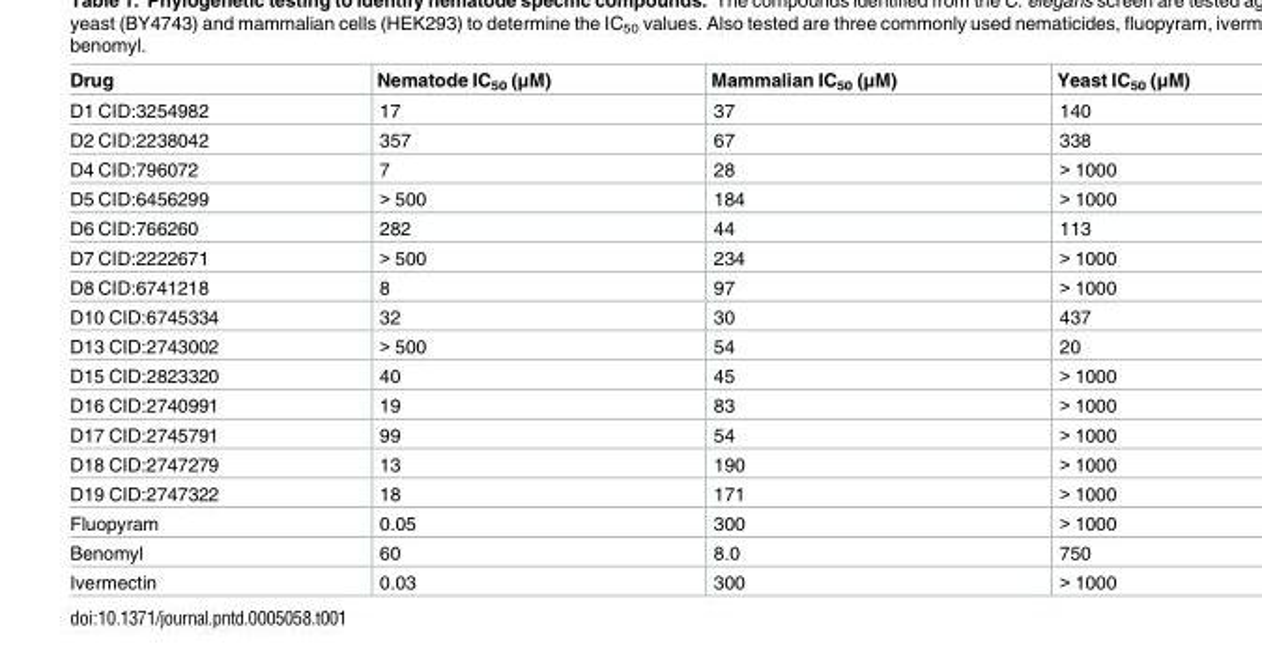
<table><thead><tr><td>Drug</td><td>Nematode IC<sub>50</sub> (μM)</td><td>Mammalian IC<sub>50</sub> (μM)</td><td>Yeast IC<sub>50</sub> (μM)</td></tr></thead><tbody><tr><td>D1 CID:3254982</td><td>17</td><td>37</td><td>140</td></tr><tr><td>D2 CID:2238042</td><td>357</td><td>67</td><td>338</td></tr><tr><td>D4 CID:796072</td><td>7</td><td>28</td><td>&gt; 1000</td></tr><tr><td>D5 CID:6456299</td><td>&gt; 500</td><td>184</td><td>&gt; 1000</td></tr><tr><td>D6 CID:766260</td><td>282</td><td>44</td><td>113</td></tr><tr><td>D7 CID:2222671</td><td>&gt; 500</td><td>234</td><td>&gt; 1000</td></tr><tr><td>D8 CID:6741218</td><td>8</td><td>97</td><td>&gt; 1000</td></tr><tr><td>D10 CID:6745334</td><td>32</td><td>30</td><td>437</td></tr><tr><td>D13 CID:2743002</td><td>&gt; 500</td><td>54</td><td>20</td></tr><tr><td>D15 CID:2823320</td><td>40</td><td>45</td><td>&gt; 1000</td></tr><tr><td>D16 CID:2740991</td><td>19</td><td>83</td><td>&gt; 1000</td></tr><tr><td>D17 CID:2745791</td><td>99</td><td>54</td><td>&gt; 1000</td></tr><tr><td>D18 CID:2747279</td><td>13</td><td>190</td><td>&gt; 1000</td></tr><tr><td>D19 CID:2747322</td><td>18</td><td>171</td><td>&gt; 1000</td></tr><tr><td>Fluopyram</td><td>0.05</td><td>300</td><td>&gt; 1000</td></tr><tr><td>Benomyl</td><td>60</td><td>8.0</td><td>750</td></tr><tr><td>Ivermectin</td><td>0.03</td><td>300</td><td>&gt; 1000</td></tr></tbody></table>